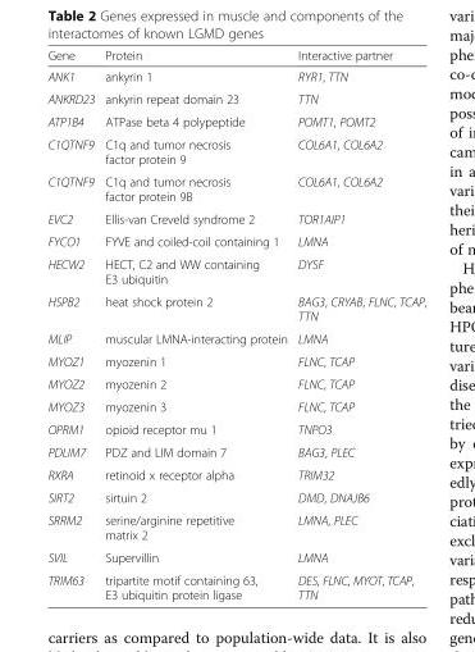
<table><thead><tr><td>Gene</td><td>Protein</td><td>Interactive partner</td></tr></thead><tbody><tr><td>ANK1</td><td>ankyrin 1</td><td>RYR1, TTN</td></tr><tr><td>ANKRD23</td><td>ankyrin repeat domain 23</td><td>TTN</td></tr><tr><td>ATP1B4</td><td>ATPase beta 4 polypeptide</td><td>POMT1, POMT2</td></tr><tr><td>C1QTNF9</td><td>C1q and tumor necrosis factor protein 9</td><td>COL6A1, COL6A2</td></tr><tr><td>C1QTNF9</td><td>C1q and tumor necrosis factor protein 9B</td><td>COL6A1, COL6A2</td></tr><tr><td>EVC2</td><td>Ellis-van Creveld syndrome 2</td><td>TOR1AIP1</td></tr><tr><td>FYCO1</td><td>FYVE and coiled-coil containing 1</td><td>LMNA</td></tr><tr><td>HECW2</td><td>HECT, C2 and WW containing E3 ubiquitin</td><td>DYSF</td></tr><tr><td>HSPB2</td><td>heat shock protein 2</td><td>BAG3, CRYAB, FLNC, TCAP, TTN</td></tr><tr><td>MLIP</td><td>muscular LMNA-interacting protein</td><td>LMNA</td></tr><tr><td>MYOZ1</td><td>myozenin 1</td><td>FLNC, TCAP</td></tr><tr><td>MYOZ2</td><td>myozenin 2</td><td>FLNC, TCAP</td></tr><tr><td>MYOZ3</td><td>myozenin 3</td><td>FLNC, TCAP</td></tr><tr><td>OPRM1</td><td>opioid receptor mu 1</td><td>TNPO3</td></tr><tr><td>PDLIM7</td><td>PDZ and LIM domain 7</td><td>BAG3, PLEC</td></tr><tr><td>RXRA</td><td>retinoid x receptor alpha</td><td>TRIM32</td></tr><tr><td>SIRT2</td><td>sirtuin 2</td><td>DMD, DNAJB6</td></tr><tr><td>SRRM2</td><td>serine/arginine repetitive matrix 2</td><td>LMNA, PLEC</td></tr><tr><td>SVIL</td><td>Supervillin</td><td>LMNA</td></tr><tr><td>TRIM63</td><td>tripartite motif containing 63, E3 ubiquitin protein ligase</td><td>DES, FLNC, MYOT, TCAP, TTN</td></tr></tbody></table>